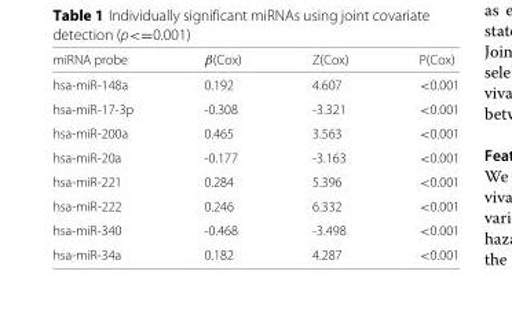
<table><thead><tr><td>miRNA probe</td><td>β(Cox)</td><td>Z(Cox)</td><td>P(Cox)</td></tr></thead><tbody><tr><td>hsa-miR-148a</td><td>0.192</td><td>4.607</td><td>&lt;0.001</td></tr><tr><td>hsa-miR-17-3p</td><td>-0.308</td><td>-3.321</td><td>&lt;0.001</td></tr><tr><td>hsa-miR-200a</td><td>0.465</td><td>3.563</td><td>&lt;0.001</td></tr><tr><td>hsa-miR-20a</td><td>-0.177</td><td>-3.163</td><td>&lt;0.001</td></tr><tr><td>hsa-miR-221</td><td>0.284</td><td>5.396</td><td>&lt;0.001</td></tr><tr><td>hsa-miR-222</td><td>0.246</td><td>6.332</td><td>&lt;0.001</td></tr><tr><td>hsa-miR-340</td><td>-0.468</td><td>-3.498</td><td>&lt;0.001</td></tr><tr><td>hsa-miR-34a</td><td>0.182</td><td>4.287</td><td>&lt;0.001</td></tr></tbody></table>